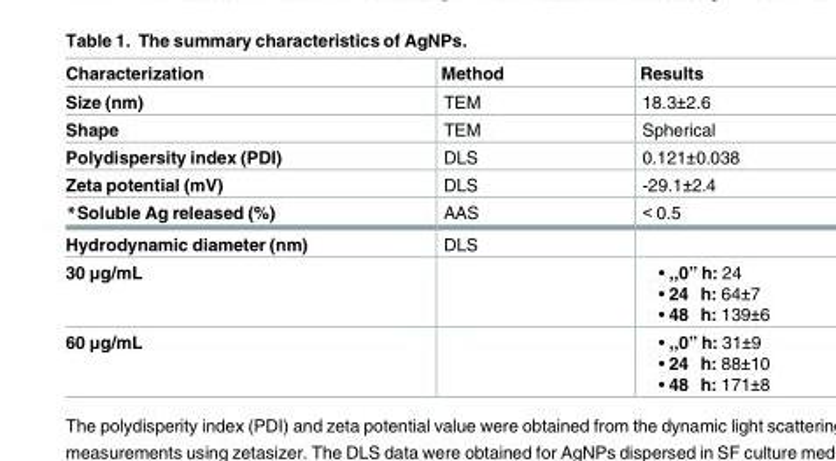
<table><thead><tr><td>Characterization</td><td>Method</td><td>Results</td></tr></thead><tbody><tr><td>Size (nm)</td><td>TEM</td><td>18.3±2.6</td></tr><tr><td>Shape</td><td>TEM</td><td>Spherical</td></tr><tr><td>Polydispersity index (PDI)</td><td>DLS</td><td>0.121±0.038</td></tr><tr><td>Zeta potential (mV)</td><td>DLS</td><td>-29.1±2.4</td></tr><tr><td>*Soluble Ag released (%)</td><td>AAS</td><td>&lt; 0.5</td></tr><tr><td>Hydrodynamic diameter (nm)</td><td>DLS</td><td></td></tr><tr><td>30 μg/mL</td><td></td><td>• ,,0” h: 24 • 24 h: 64±7 • 48 h: 139±6</td></tr><tr><td>60 μg/mL</td><td></td><td>• ,,0” h: 31±9 • 24 h: 88±10 • 48 h: 171±8</td></tr></tbody></table>